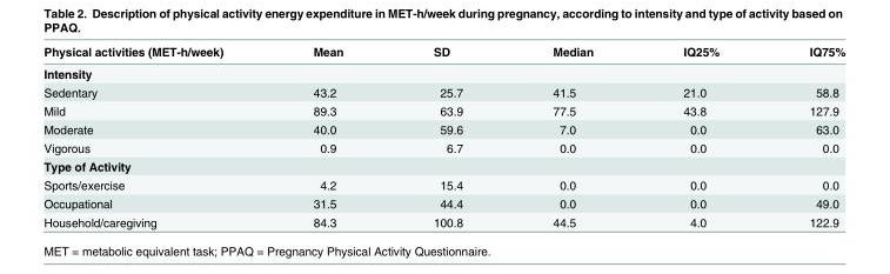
<table><thead><tr><td>Physical activities (MET-h/week)</td><td>Mean</td><td>SD</td><td>Median</td><td>IQ25%</td><td>IQ75%</td></tr></thead><tbody><tr><td colspan="6">Intensity</td></tr><tr><td>Sedentary</td><td>43.2</td><td>25.7</td><td>41.5</td><td>21.0</td><td>58.8</td></tr><tr><td>Mild</td><td>89.3</td><td>63.9</td><td>77.5</td><td>43.8</td><td>127.9</td></tr><tr><td>Moderate</td><td>40.0</td><td>59.6</td><td>7.0</td><td>0.0</td><td>63.0</td></tr><tr><td>Vigorous</td><td>0.9</td><td>6.7</td><td>0.0</td><td>0.0</td><td>0.0</td></tr><tr><td colspan="6">Type of Activity</td></tr><tr><td>Sports/exercise</td><td>4.2</td><td>15.4</td><td>0.0</td><td>0.0</td><td>0.0</td></tr><tr><td>Occupational</td><td>31.5</td><td>44.4</td><td>0.0</td><td>0.0</td><td>49.0</td></tr><tr><td>Household/caregiving</td><td>84.3</td><td>100.8</td><td>44.5</td><td>4.0</td><td>122.9</td></tr></tbody></table>